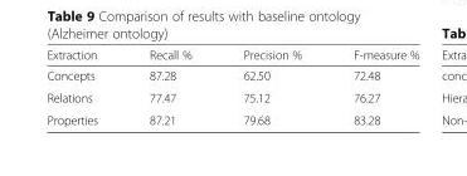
<table><thead><tr><td>Extraction</td><td>Recall %</td><td>Precision %</td><td>F-measure %</td></tr></thead><tbody><tr><td>Concepts</td><td>87.28</td><td>62.50</td><td>72.48</td></tr><tr><td>Relations</td><td>77.47</td><td>75.12</td><td>76.27</td></tr><tr><td>Properties</td><td>87.21</td><td>79.68</td><td>83.28</td></tr></tbody></table>